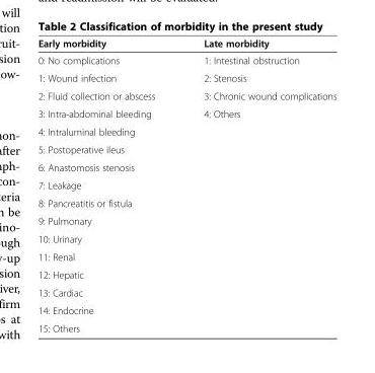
<table><thead><tr><td>Early morbidity</td><td>Late morbidity</td></tr></thead><tbody><tr><td>0: No complications</td><td>1: Intestinal obstruction</td></tr><tr><td>1: Wound infection</td><td>2: Stenosis</td></tr><tr><td>2: Fluid collection or abscess</td><td>3: Chronic wound complications</td></tr><tr><td>3: Intra-abdominal bleeding</td><td>4: Others</td></tr><tr><td colspan="2">4: Intraluminal bleeding</td></tr><tr><td colspan="2">5: Postoperative ileus</td></tr><tr><td colspan="2">6: Anastomosis stenosis</td></tr><tr><td colspan="2">7: Leakage</td></tr><tr><td colspan="2">8: Pancreatitis or fistula</td></tr><tr><td colspan="2">9: Pulmonary</td></tr><tr><td colspan="2">10: Urinary</td></tr><tr><td colspan="2">11: Renal</td></tr><tr><td colspan="2">12: Hepatic</td></tr><tr><td colspan="2">13: Cardiac</td></tr><tr><td colspan="2">14: Endocrine</td></tr><tr><td>15: Others</td><td></td></tr></tbody></table>